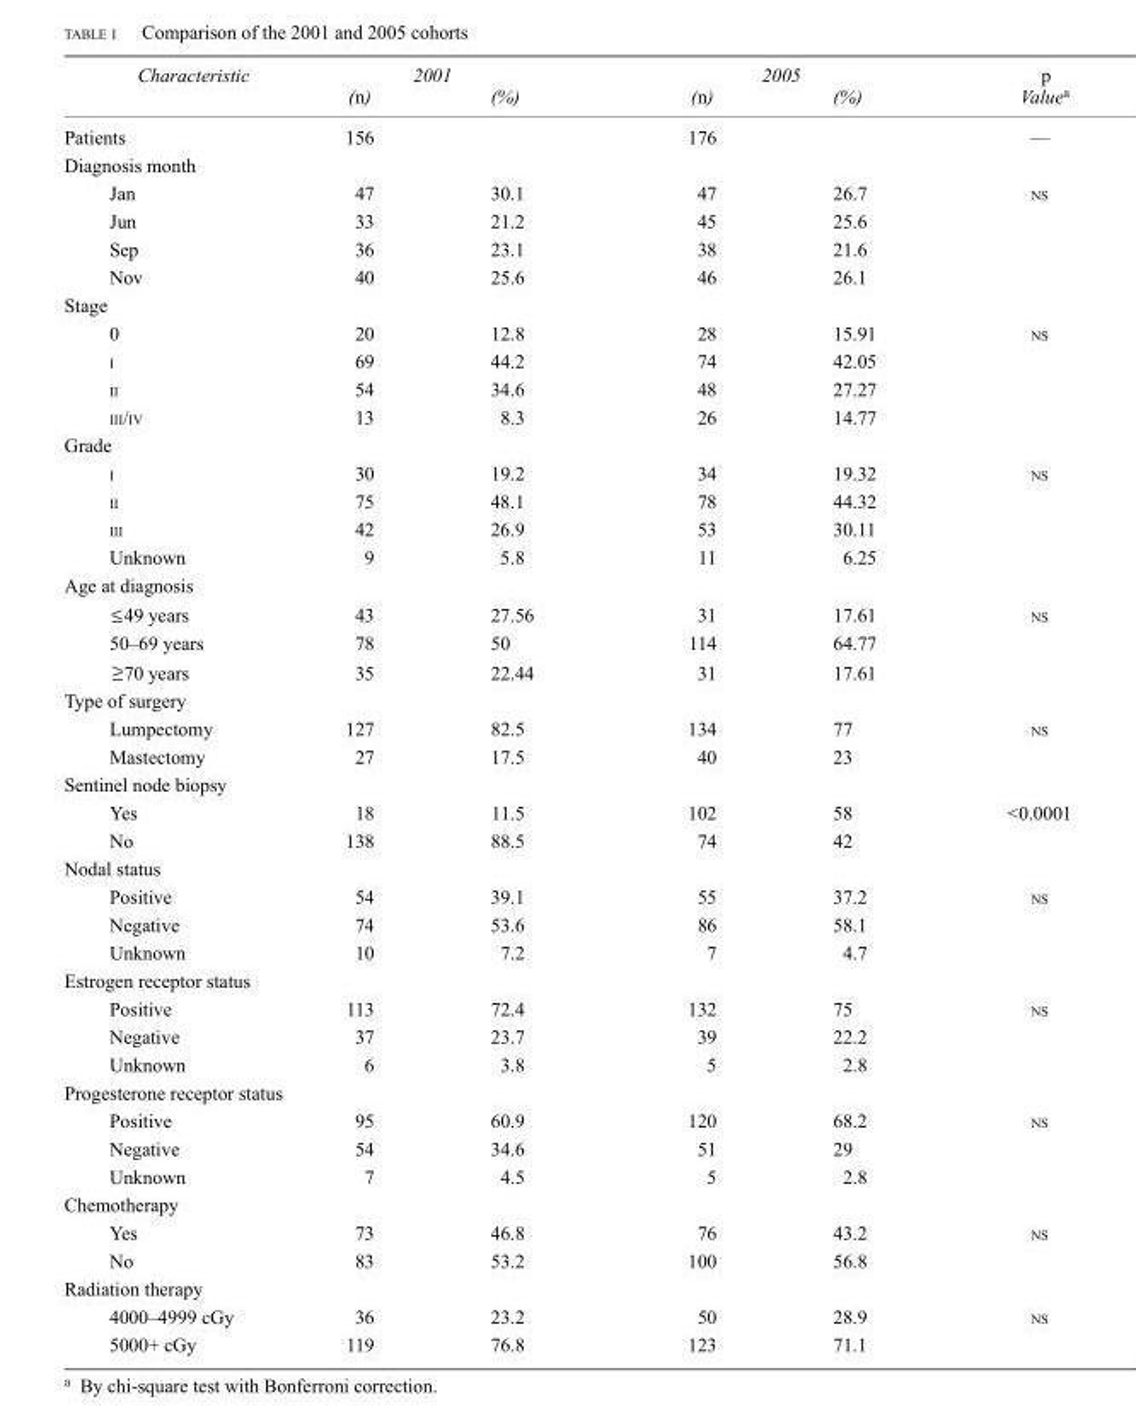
<table><thead><tr><td rowspan="2">Characteristic</td><td colspan="2">2001</td><td colspan="2">2005</td><td rowspan="2">p Value<sup>a</sup></td></tr><tr><td>(n)</td><td>(%)</td><td>(n)</td><td>(%)</td></tr></thead><tbody><tr><td>Patients</td><td>156</td><td></td><td>176</td><td></td><td>—</td></tr><tr><td colspan="6">diagnosis month</td></tr><tr><td>Jan</td><td>47</td><td>30.1</td><td>47</td><td>26.7</td><td>ns</td></tr><tr><td>Jun</td><td>33</td><td>21.2</td><td>45</td><td>25.6</td><td></td></tr><tr><td>Sep</td><td>36</td><td>23.1</td><td>38</td><td>21.6</td><td></td></tr><tr><td>Nov</td><td>40</td><td>25.6</td><td>46</td><td>26.1</td><td></td></tr><tr><td colspan="6">Stage</td></tr><tr><td>0</td><td>20</td><td>12.8</td><td>28</td><td>15.91</td><td>ns</td></tr><tr><td>i</td><td>69</td><td>44.2</td><td>74</td><td>42.05</td><td></td></tr><tr><td>ii</td><td>54</td><td>34.6</td><td>48</td><td>27.27</td><td></td></tr><tr><td>iii/iv</td><td>13</td><td>8.3</td><td>26</td><td>14.77</td><td></td></tr><tr><td colspan="6">Grade</td></tr><tr><td>i</td><td>30</td><td>19.2</td><td>34</td><td>19.32</td><td>ns</td></tr><tr><td>ii</td><td>75</td><td>48.1</td><td>78</td><td>44.32</td><td></td></tr><tr><td>iii</td><td>42</td><td>26.9</td><td>53</td><td>30.11</td><td></td></tr><tr><td>Unknown</td><td>9</td><td>5.8</td><td>11</td><td>6.25</td><td></td></tr><tr><td colspan="6">age at diagnosis</td></tr><tr><td>49 years</td><td>43</td><td>27.56</td><td>31</td><td>17.61</td><td>ns</td></tr><tr><td>50–69 years</td><td>78</td><td>50</td><td>114</td><td>64.77</td><td></td></tr><tr><td>70 years</td><td>35</td><td>22.44</td><td>31</td><td>17.61</td><td></td></tr><tr><td colspan="6">Type of surgery</td></tr><tr><td>lumpectomy</td><td>127</td><td>82.5</td><td>134</td><td>77</td><td>ns</td></tr><tr><td>Mastectomy</td><td>27</td><td>17.5</td><td>40</td><td>23</td><td></td></tr><tr><td colspan="6">Sentinel node biopsy</td></tr><tr><td>Yes</td><td>18</td><td>11.5</td><td>102</td><td>58</td><td>&lt;0.0001</td></tr><tr><td>No</td><td>138</td><td>88.5</td><td>74</td><td>42</td><td></td></tr><tr><td colspan="6">Nodal status</td></tr><tr><td>Positive</td><td>54</td><td>39.1</td><td>55</td><td>37.2</td><td>ns</td></tr><tr><td>Negative</td><td>74</td><td>53.6</td><td>86</td><td>58.1</td><td></td></tr><tr><td>Unknown</td><td>10</td><td>7.2</td><td>7</td><td>4.7</td><td></td></tr><tr><td colspan="6">Estrogen receptor status</td></tr><tr><td>Positive</td><td>113</td><td>72.4</td><td>132</td><td>75</td><td>ns</td></tr><tr><td>Negative</td><td>37</td><td>23.7</td><td>39</td><td>22.2</td><td></td></tr><tr><td>Unknown</td><td>6</td><td>3.8</td><td>5</td><td>2.8</td><td></td></tr><tr><td colspan="6">Progesterone receptor status</td></tr><tr><td>Positive</td><td>95</td><td>60.9</td><td>120</td><td>68.2</td><td>ns</td></tr><tr><td>Negative</td><td>54</td><td>34.6</td><td>51</td><td>29</td><td></td></tr><tr><td>Unknown</td><td>7</td><td>4.5</td><td>5</td><td>2.8</td><td></td></tr><tr><td colspan="6">Chemotherapy</td></tr><tr><td>Yes</td><td>73</td><td>46.8</td><td>76</td><td>43.2</td><td>ns</td></tr><tr><td>No</td><td>83</td><td>53.2</td><td>100</td><td>56.8</td><td></td></tr><tr><td colspan="6">radiation therapy</td></tr><tr><td>4000–4999 cGy</td><td>36</td><td>23.2</td><td>50</td><td>28.9</td><td>ns</td></tr><tr><td>5000+ cGy</td><td>119</td><td>76.8</td><td>123</td><td>71.1</td><td></td></tr></tbody></table>